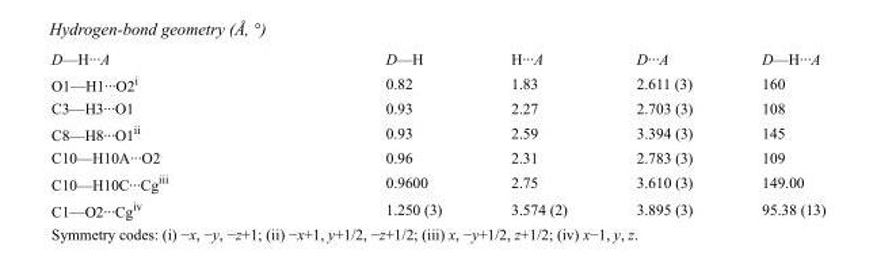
<table><tbody><tr><td>D—H···A</td><td>D—H</td><td>H···A</td><td>D···A</td><td>D—H···A</td></tr><tr><td>O1—H1···O2<sup>i</sup></td><td>0.82</td><td>1.83</td><td>2.611 (3)</td><td>160</td></tr><tr><td>C3—H3···O1</td><td>0.93</td><td>2.27</td><td>2.703 (3)</td><td>108</td></tr><tr><td>C8—H8···O1<sup>ii</sup></td><td>0.93</td><td>2.59</td><td>3.394 (3)</td><td>145</td></tr><tr><td>C10—H10A···O2</td><td>0.96</td><td>2.31</td><td>2.783 (3)</td><td>109</td></tr><tr><td>C10—H10C···Cg<sup>iii</sup></td><td>0.9600</td><td>2.75</td><td>3.610 (3)</td><td>149.00</td></tr><tr><td>C1—O2···Cg<sup>iv</sup></td><td>1.250 (3)</td><td>3.574 (2)</td><td>3.895 (3)</td><td>95.38 (13)</td></tr></tbody></table>